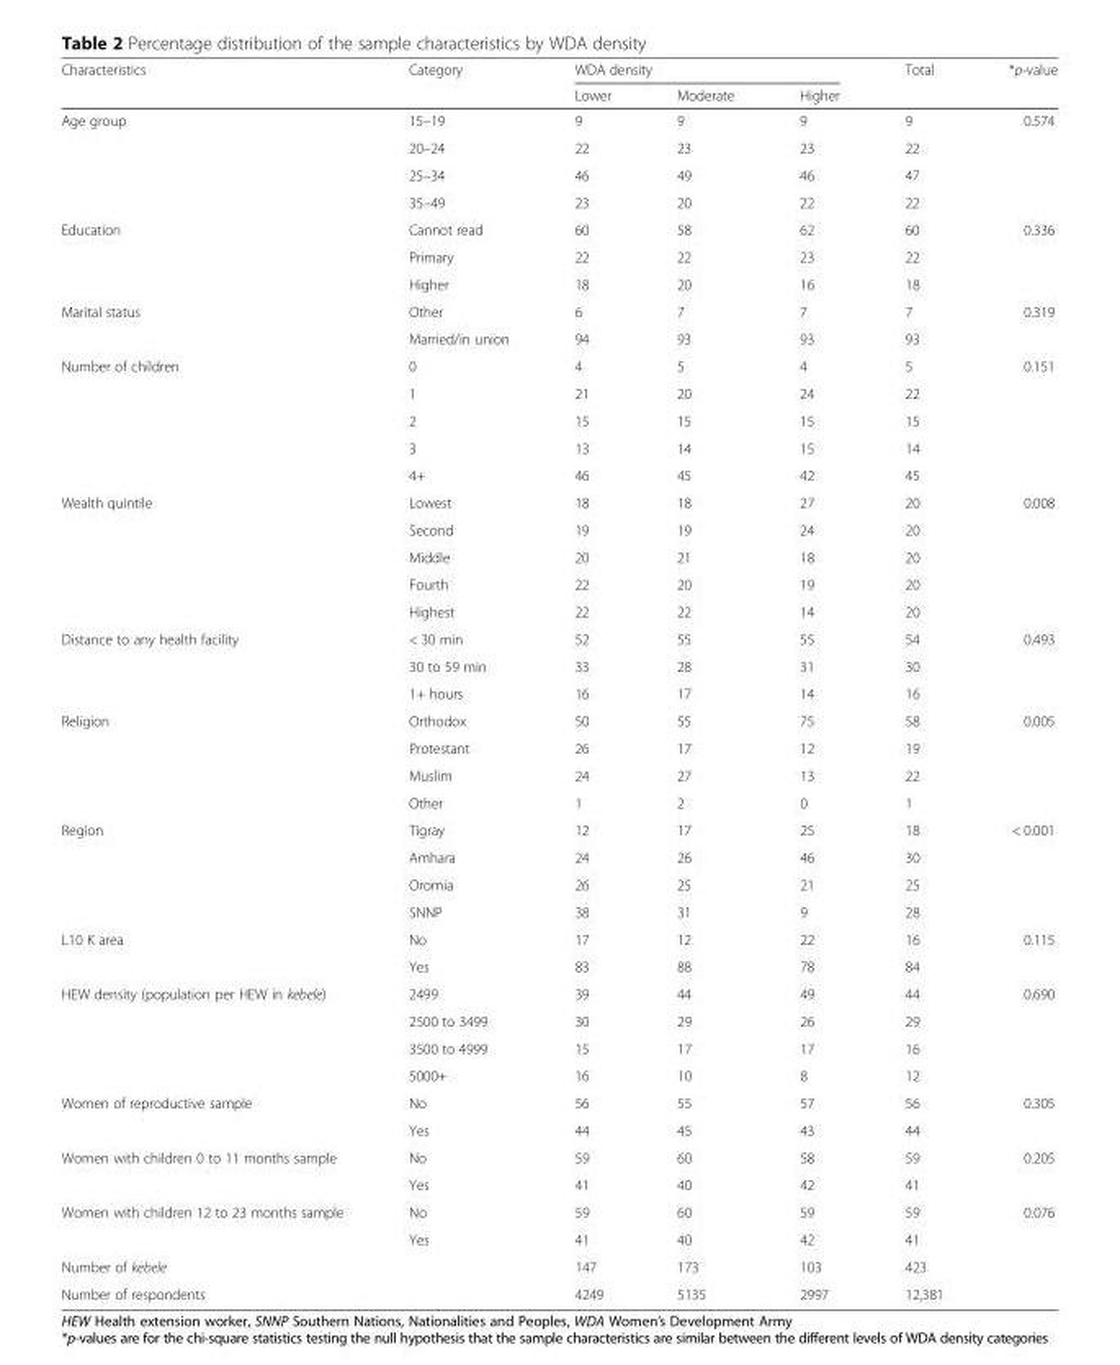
<table><thead><tr><td rowspan="2">Characteristics</td><td rowspan="2">Category</td><td colspan="3">WDA density</td><td rowspan="2">Total</td><td rowspan="2">*p-value</td></tr><tr><td>Lower</td><td>Moderate</td><td>Higher</td></tr></thead><tbody><tr><td rowspan="4">Age group</td><td>15–19</td><td>9</td><td>9</td><td>9</td><td>9</td><td>0.574</td></tr><tr><td>20–24</td><td>22</td><td>23</td><td>23</td><td>22</td><td></td></tr><tr><td>25–34</td><td>46</td><td>49</td><td>46</td><td>47</td><td></td></tr><tr><td>35–49</td><td>23</td><td>20</td><td>22</td><td>22</td><td></td></tr><tr><td rowspan="3">Education</td><td>Cannot read</td><td>60</td><td>58</td><td>62</td><td>60</td><td>0.336</td></tr><tr><td>Primary</td><td>22</td><td>22</td><td>23</td><td>22</td><td></td></tr><tr><td>Higher</td><td>18</td><td>20</td><td>16</td><td>18</td><td></td></tr><tr><td rowspan="2">Marital status</td><td>Other</td><td>6</td><td>7</td><td>7</td><td>7</td><td>0.319</td></tr><tr><td>Married/in union</td><td>94</td><td>93</td><td>93</td><td>93</td><td></td></tr><tr><td rowspan="5">Number of children</td><td>0</td><td>4</td><td>5</td><td>4</td><td>5</td><td>0.151</td></tr><tr><td>1</td><td>21</td><td>20</td><td>24</td><td>22</td><td></td></tr><tr><td>2</td><td>15</td><td>15</td><td>15</td><td>15</td><td></td></tr><tr><td>3</td><td>13</td><td>14</td><td>15</td><td>14</td><td></td></tr><tr><td>4+</td><td>46</td><td>45</td><td>42</td><td>45</td><td></td></tr><tr><td rowspan="5">Wealth quintile</td><td>Lowest</td><td>18</td><td>18</td><td>27</td><td>20</td><td>0.008</td></tr><tr><td>Second</td><td>19</td><td>19</td><td>24</td><td>20</td><td></td></tr><tr><td>Middle</td><td>20</td><td>21</td><td>18</td><td>20</td><td></td></tr><tr><td>Fourth</td><td>22</td><td>20</td><td>19</td><td>20</td><td></td></tr><tr><td>Highest</td><td>22</td><td>22</td><td>14</td><td>20</td><td></td></tr><tr><td rowspan="3">Distance to any health facility</td><td>&lt; 30 min</td><td>52</td><td>55</td><td>55</td><td>54</td><td>0.493</td></tr><tr><td>30 to 59 min</td><td>33</td><td>28</td><td>31</td><td>30</td><td></td></tr><tr><td>1+ hours</td><td>16</td><td>17</td><td>14</td><td>16</td><td></td></tr><tr><td rowspan="4">Religion</td><td>Orthodox</td><td>50</td><td>55</td><td>75</td><td>58</td><td>0.005</td></tr><tr><td>Protestant</td><td>26</td><td>17</td><td>12</td><td>19</td><td></td></tr><tr><td>Muslim</td><td>24</td><td>27</td><td>13</td><td>22</td><td></td></tr><tr><td>Other</td><td>1</td><td>2</td><td>0</td><td>1</td><td></td></tr><tr><td rowspan="4">Region</td><td>Tigray</td><td>12</td><td>17</td><td>25</td><td>18</td><td>&lt; 0.001</td></tr><tr><td>Amhara</td><td>24</td><td>26</td><td>46</td><td>30</td><td></td></tr><tr><td>Oromia</td><td>26</td><td>25</td><td>21</td><td>25</td><td></td></tr><tr><td>SNNP</td><td>38</td><td>31</td><td>9</td><td>28</td><td></td></tr><tr><td rowspan="2">L10 K area</td><td>No</td><td>17</td><td>12</td><td>22</td><td>16</td><td>0.115</td></tr><tr><td>Yes</td><td>83</td><td>88</td><td>78</td><td>84</td><td></td></tr><tr><td rowspan="4">HEW density (population per HEW in kebele)</td><td>2499</td><td>39</td><td>44</td><td>49</td><td>44</td><td>0.690</td></tr><tr><td>2500 to 3499</td><td>30</td><td>29</td><td>26</td><td>29</td><td></td></tr><tr><td>3500 to 4999</td><td>15</td><td>17</td><td>17</td><td>16</td><td></td></tr><tr><td>5000+</td><td>16</td><td>10</td><td>8</td><td>12</td><td></td></tr><tr><td rowspan="2">Women of reproductive sample</td><td>No</td><td>56</td><td>55</td><td>57</td><td>56</td><td>0.305</td></tr><tr><td>Yes</td><td>44</td><td>45</td><td>43</td><td>44</td><td></td></tr><tr><td rowspan="2">Women with children 0 to 11 months sample</td><td>No</td><td>59</td><td>60</td><td>58</td><td>59</td><td>0.205</td></tr><tr><td>Yes</td><td>41</td><td>40</td><td>42</td><td>41</td><td></td></tr><tr><td rowspan="2">Women with children 12 to 23 months sample</td><td>No</td><td>59</td><td>60</td><td>59</td><td>59</td><td>0.076</td></tr><tr><td>Yes</td><td>41</td><td>40</td><td>42</td><td>41</td><td></td></tr><tr><td>Number of kebele</td><td></td><td>147</td><td>173</td><td>103</td><td>423</td><td></td></tr><tr><td>Number of respondents</td><td></td><td>4249</td><td>5135</td><td>2997</td><td>12,381</td><td></td></tr></tbody></table>